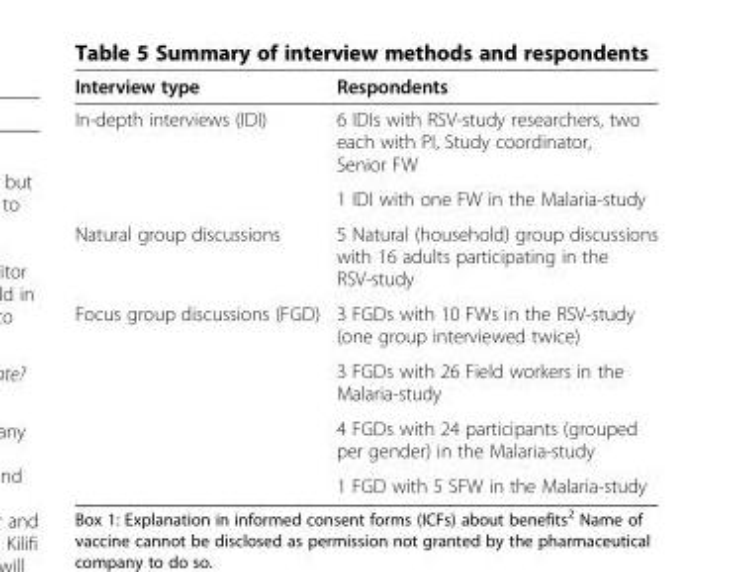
<table><thead><tr><td>Interview type</td><td>Respondents</td></tr></thead><tbody><tr><td rowspan="2">In-depth interviews (IDI)</td><td>6 IDIs with RSV-study researchers, two each with PI, Study coordinator, Senior FW</td></tr><tr><td>1 IDI with one FW in the Malaria-study</td></tr><tr><td>Natural group discussions</td><td>5 Natural (household) group discussions with 16 adults participating in the RSV-study</td></tr><tr><td rowspan="4">Focus group discussions (FGD)</td><td>3 FGDs with 10 FWs in the RSV-study (one group interviewed twice)</td></tr><tr><td>3 FGDs with 26 Field workers in the Malaria-study</td></tr><tr><td>4 FGDs with 24 participants (grouped per gender) in the Malaria-study</td></tr><tr><td>1 FGD with 5 SFW in the Malaria-study</td></tr></tbody></table>